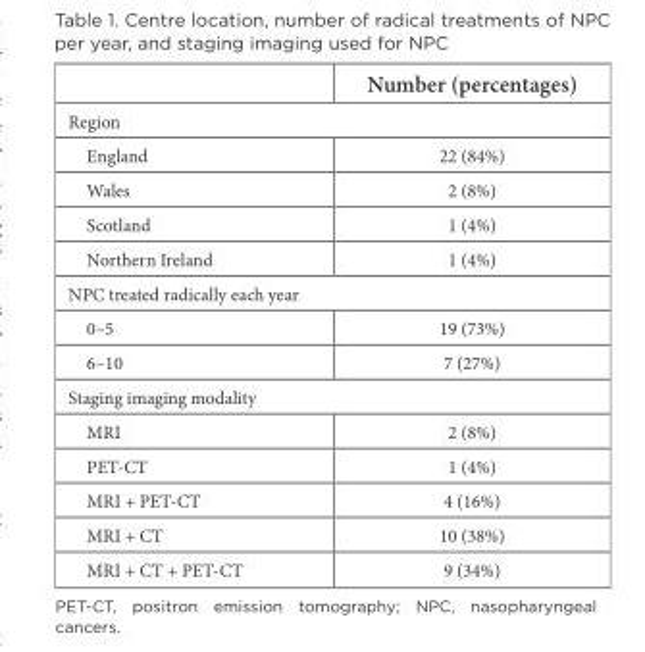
<table><thead><tr><td></td><td>Number (percentages)</td></tr></thead><tbody><tr><td colspan="2">Region</td></tr><tr><td>England</td><td>22 (84%)</td></tr><tr><td>Wales</td><td>2 (8%)</td></tr><tr><td>Scotland</td><td>1 (4%)</td></tr><tr><td>Northern Ireland</td><td>1 (4%)</td></tr><tr><td colspan="2">NPC treated radically each year</td></tr><tr><td>0–5</td><td>19 (73%)</td></tr><tr><td>6–10</td><td>7 (27%)</td></tr><tr><td colspan="2">Staging imaging modality</td></tr><tr><td>MRI</td><td>2 (8%)</td></tr><tr><td>PET-CT</td><td>1 (4%)</td></tr><tr><td>MRI + PET-CT</td><td>4 (16%)</td></tr><tr><td>MRI + CT</td><td>10 (38%)</td></tr><tr><td>MRI + CT + PET-CT</td><td>9 (34%)</td></tr></tbody></table>